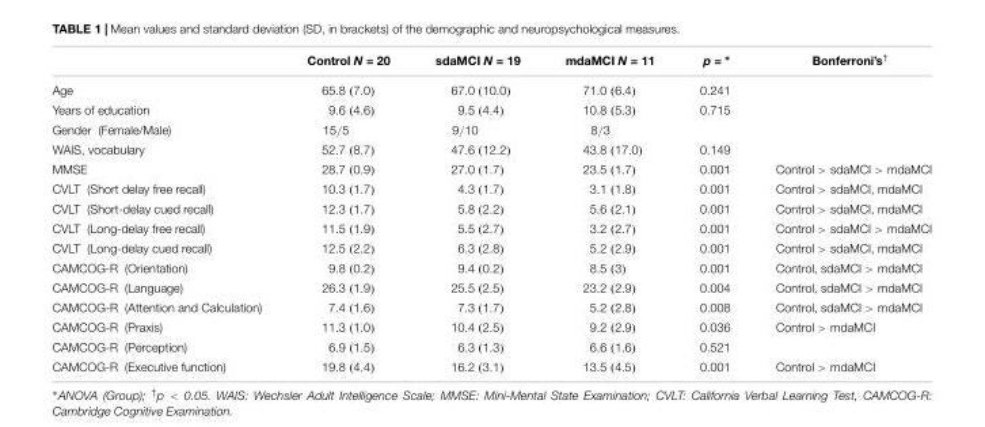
<table><thead><tr><td></td><td>Control N = 20</td><td>sdaMCI N = 19</td><td>mdaMCI N = 11</td><td>p = ∗</td><td>Bonferroni’s<sup>†</sup></td></tr></thead><tbody><tr><td>Age</td><td>65.8 (7.0)</td><td>67.0 (10.0)</td><td>71.0 (6.4)</td><td>0.241</td><td></td></tr><tr><td>Years of education</td><td>9.6 (4.6)</td><td>9.5 (4.4)</td><td>10.8 (5.3)</td><td>0.715</td><td></td></tr><tr><td>Gender (Female/Male)</td><td>15/5</td><td>9/10</td><td>8/3</td><td></td><td></td></tr><tr><td>WAIS, vocabulary</td><td>52.7 (8.7)</td><td>47.6 (12.2)</td><td>43.8 (17.0)</td><td>0.149</td><td></td></tr><tr><td>MMSE</td><td>28.7 (0.9)</td><td>27.0 (1.7)</td><td>23.5 (1.7)</td><td>0.001</td><td>Control &gt; sdaMCI &gt; mdaMCI</td></tr><tr><td>CVLT (Short delay free recall)</td><td>10.3 (1.7)</td><td>4.3 (1.7)</td><td>3.1 (1.8)</td><td>0.001</td><td>Control &gt; sdaMCI, mdaMCI</td></tr><tr><td>CVLT (Short-delay cued recall)</td><td>12.3 (1.7)</td><td>5.8 (2.2)</td><td>5.6 (2.1)</td><td>0.001</td><td>Control &gt; sdaMCI, mdaMCI</td></tr><tr><td>CVLT (Long-delay free recall)</td><td>11.5 (1.9)</td><td>5.5 (2.7)</td><td>3.2 (2.7)</td><td>0.001</td><td>Control &gt; sdaMCI &gt; mdaMCI</td></tr><tr><td>CVLT (Long-delay cued recall)</td><td>12.5 (2.2)</td><td>6.3 (2.8)</td><td>5.2 (2.9)</td><td>0.001</td><td>Control &gt; sdaMCI, mdaMCI</td></tr><tr><td>CAMCOG-R (Orientation)</td><td>9.8 (0.2)</td><td>9.4 (0.2)</td><td>8.5 (3)</td><td>0.001</td><td>Control, sdaMCI &gt; mdaMCI</td></tr><tr><td>CAMCOG-R (Language)</td><td>26.3 (1.9)</td><td>25.5 (2.5)</td><td>23.2 (2.9)</td><td>0.004</td><td>Control, sdaMCI &gt; mdaMCI</td></tr><tr><td>CAMCOG-R (Attention and Calculation)</td><td>7.4 (1.6)</td><td>7.3 (1.7)</td><td>5.2 (2.8)</td><td>0.008</td><td>Control, sdaMCI &gt; mdaMCI</td></tr><tr><td>CAMCOG-R (Praxis)</td><td>11.3 (1.0)</td><td>10.4 (2.5)</td><td>9.2 (2.9)</td><td>0.036</td><td>Control &gt; mdaMCI</td></tr><tr><td>CAMCOG-R (Perception)</td><td>6.9 (1.5)</td><td>6.3 (1.3)</td><td>6.6 (1.6)</td><td>0.521</td><td></td></tr><tr><td>CAMCOG-R (Executive function)</td><td>19.8 (4.4)</td><td>16.2 (3.1)</td><td>13.5 (4.5)</td><td>0.001</td><td>Control &gt; mdaMCI</td></tr></tbody></table>